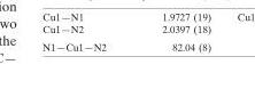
<table><tbody><tr><td>N1—Cu1—N2</td><td>82.04 (8)</td></tr></tbody></table>